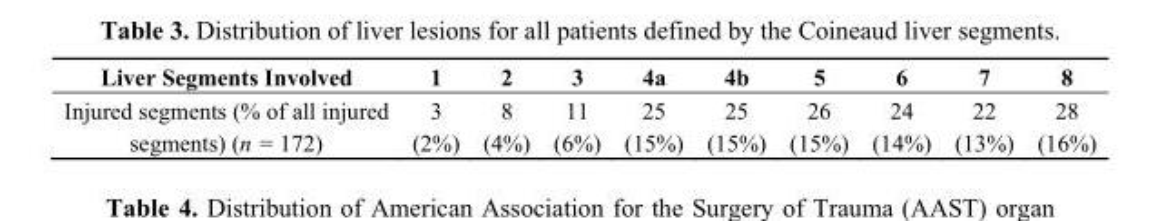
<table><thead><tr><td>Liver Segments Involved</td><td>1</td><td>2</td><td>3</td><td>4a</td><td>4b</td><td>5</td><td>6</td><td>7</td><td>8</td></tr></thead><tbody><tr><td>Injured segments (% of all injured segments) (n = 172)</td><td>3 (2%)</td><td>8 (4%)</td><td>11 (6%)</td><td>25 (15%)</td><td>25 (15%)</td><td>26 (15%)</td><td>24 (14%)</td><td>22 (13%)</td><td>28 (16%)</td></tr></tbody></table>